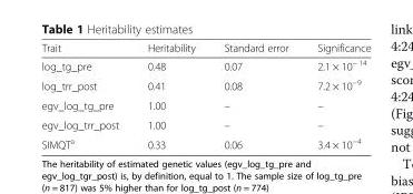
<table><thead><tr><td>Trait</td><td>Heritability</td><td>Standard error</td><td>Significance</td></tr></thead><tbody><tr><td>log_tg_pre</td><td>0.48</td><td>0.07</td><td>2.1 × 10<sup>− 14</sup></td></tr><tr><td>log_trr_post</td><td>0.41</td><td>0.08</td><td>7.2 × 10<sup>−9</sup></td></tr><tr><td>egv_log_tg_pre</td><td>1.00</td><td>–</td><td>–</td></tr><tr><td>egv_log_trr_post</td><td>1.00</td><td>–</td><td>–</td></tr><tr><td>SIMQT<sup>a</sup></td><td>0.33</td><td>0.06</td><td>3.4 × 10<sup>−4</sup></td></tr></tbody></table>